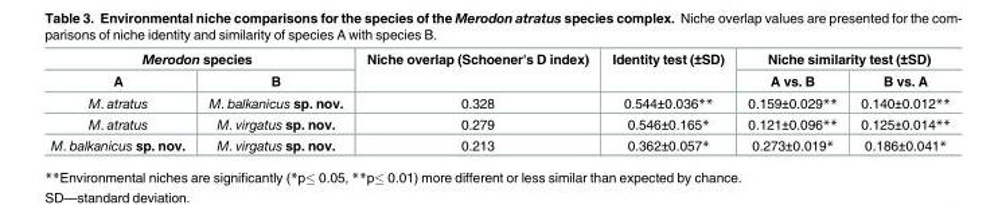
<table><thead><tr><td colspan="2">Merodon species</td><td rowspan="2">Niche overlap (Schoener&#x27;s D index)</td><td rowspan="2">Identity test (±SD)</td><td colspan="2">Niche similarity test (±SD)</td></tr><tr><td>A</td><td>B</td><td>A vs. B</td><td>B vs. A</td></tr></thead><tbody><tr><td>M. atratus</td><td>M. balkanicus sp. nov.</td><td>0.328</td><td>0.544±0.036**</td><td>0.159±0.029**</td><td>0.140±0.012**</td></tr><tr><td>M. atratus</td><td>M. virgatus sp. nov.</td><td>0.279</td><td>0.546±0.165*</td><td>0.121±0.096**</td><td>0.125±0.014**</td></tr><tr><td>M. balkanicus sp. nov.</td><td>M. virgatus sp. nov.</td><td>0.213</td><td>0.362±0.057*</td><td>0.273±0.019*</td><td>0.186±0.041*</td></tr></tbody></table>